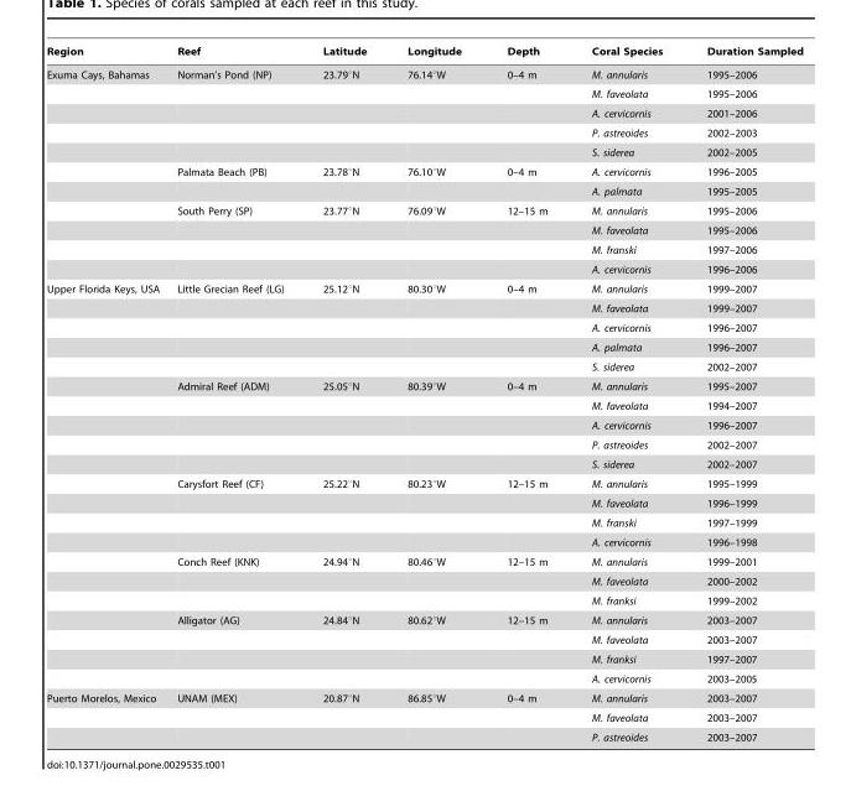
<table><thead><tr><td>Region</td><td>Reef</td><td>Latitude</td><td>Longitude</td><td>Depth</td><td>Coral Species</td><td>Duration Sampled</td></tr></thead><tbody><tr><td rowspan="11">Exuma Cays, Bahamas</td><td>Norman’s Pond (NP)</td><td>23.79°N</td><td>76.14°W</td><td>0–4 m</td><td>M. annularis</td><td>1995–2006</td></tr><tr><td></td><td></td><td></td><td></td><td>M. faveolata</td><td>1995–2006</td></tr><tr><td></td><td></td><td></td><td></td><td>A. cervicornis</td><td>2001–2006</td></tr><tr><td></td><td></td><td></td><td></td><td>P. astreoides</td><td>2002–2003</td></tr><tr><td></td><td></td><td></td><td></td><td>S. siderea</td><td>2002–2005</td></tr><tr><td>Palmata Beach (PB)</td><td>23.78°N</td><td>76.10°W</td><td>0–4 m</td><td>A. cervicornis</td><td>1996–2005</td></tr><tr><td></td><td></td><td></td><td></td><td>A. palmata</td><td>1995–2005</td></tr><tr><td>South Perry (SP)</td><td>23.77°N</td><td>76.09°W</td><td>12–15 m</td><td>M. annularis</td><td>1995–2006</td></tr><tr><td></td><td></td><td></td><td></td><td>M. faveolata</td><td>1995–2006</td></tr><tr><td></td><td></td><td></td><td></td><td>M. franski</td><td>1997–2006</td></tr><tr><td></td><td></td><td></td><td></td><td>A. cervicornis</td><td>1996–2006</td></tr><tr><td rowspan="21">Upper Florida Keys, USA</td><td>Little Grecian Reef (LG)</td><td>25.12°N</td><td>80.30°W</td><td>0–4 m</td><td>M. annularis</td><td>1999–2007</td></tr><tr><td></td><td></td><td></td><td></td><td>M. faveolata</td><td>1999–2007</td></tr><tr><td></td><td></td><td></td><td></td><td>A. cervicornis</td><td>1996–2007</td></tr><tr><td></td><td></td><td></td><td></td><td>A. palmata</td><td>1996–2007</td></tr><tr><td></td><td></td><td></td><td></td><td>S. siderea</td><td>2002–2007</td></tr><tr><td>Admiral Reef (ADM)</td><td>25.05°N</td><td>80.39°W</td><td>0–4 m</td><td>M. annularis</td><td>1995–2007</td></tr><tr><td></td><td></td><td></td><td></td><td>M. faveolata</td><td>1994–2007</td></tr><tr><td></td><td></td><td></td><td></td><td>A. cervicornis</td><td>1996–2007</td></tr><tr><td></td><td></td><td></td><td></td><td>P. astreoides</td><td>2002–2007</td></tr><tr><td></td><td></td><td></td><td></td><td>S. siderea</td><td>2002–2007</td></tr><tr><td>Carysfort Reef (CF)</td><td>25.22°N</td><td>80.23°W</td><td>12–15 m</td><td>M. annularis</td><td>1995–1999</td></tr><tr><td></td><td></td><td></td><td></td><td>M. faveolata</td><td>1996–1999</td></tr><tr><td></td><td></td><td></td><td></td><td>M. franski</td><td>1997–1999</td></tr><tr><td></td><td></td><td></td><td></td><td>A. cervicornis</td><td>1996–1998</td></tr><tr><td>Conch Reef (KNK)</td><td>24.94°N</td><td>80.46°W</td><td>12–15 m</td><td>M. annularis</td><td>1999–2001</td></tr><tr><td></td><td></td><td></td><td></td><td>M. faveolata</td><td>2000–2002</td></tr><tr><td></td><td></td><td></td><td></td><td>M. franksi</td><td>1999–2002</td></tr><tr><td>Alligator (AG)</td><td>24.84°N</td><td>80.62°W</td><td>12–15 m</td><td>M. annularis</td><td>2003–2007</td></tr><tr><td></td><td></td><td></td><td></td><td>M. faveolata</td><td>2003–2007</td></tr><tr><td></td><td></td><td></td><td></td><td>M. franksi</td><td>1997–2007</td></tr><tr><td></td><td></td><td></td><td></td><td>A. cervicornis</td><td>2003–2005</td></tr><tr><td rowspan="3">Puerto Morelos, Mexico</td><td>UNAM (MEX)</td><td>20.87°N</td><td>86.85°W</td><td>0–4 m</td><td>M. annularis</td><td>2003–2007</td></tr><tr><td></td><td></td><td></td><td></td><td>M. faveolata</td><td>2003–2007</td></tr><tr><td></td><td></td><td></td><td></td><td>P. astreoides</td><td>2003–2007</td></tr></tbody></table>